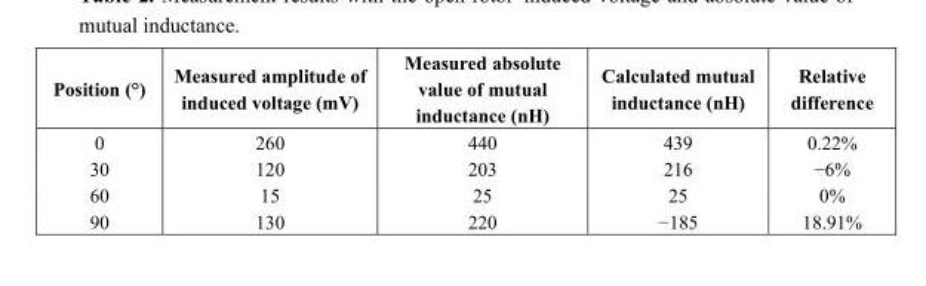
<table><thead><tr><td>Position (°)</td><td>Measured amplitude of induced voltage (mV)</td><td>Measured absolute value of mutual inductance (nH)</td><td>Calculated mutual inductance (nH)</td><td>Relative difference</td></tr></thead><tbody><tr><td>0</td><td>260</td><td>440</td><td>439</td><td>0.22%</td></tr><tr><td>30</td><td>120</td><td>203</td><td>216</td><td>−6%</td></tr><tr><td>60</td><td>15</td><td>25</td><td>25</td><td>0%</td></tr><tr><td>90</td><td>130</td><td>220</td><td>−185</td><td>18.91%</td></tr></tbody></table>